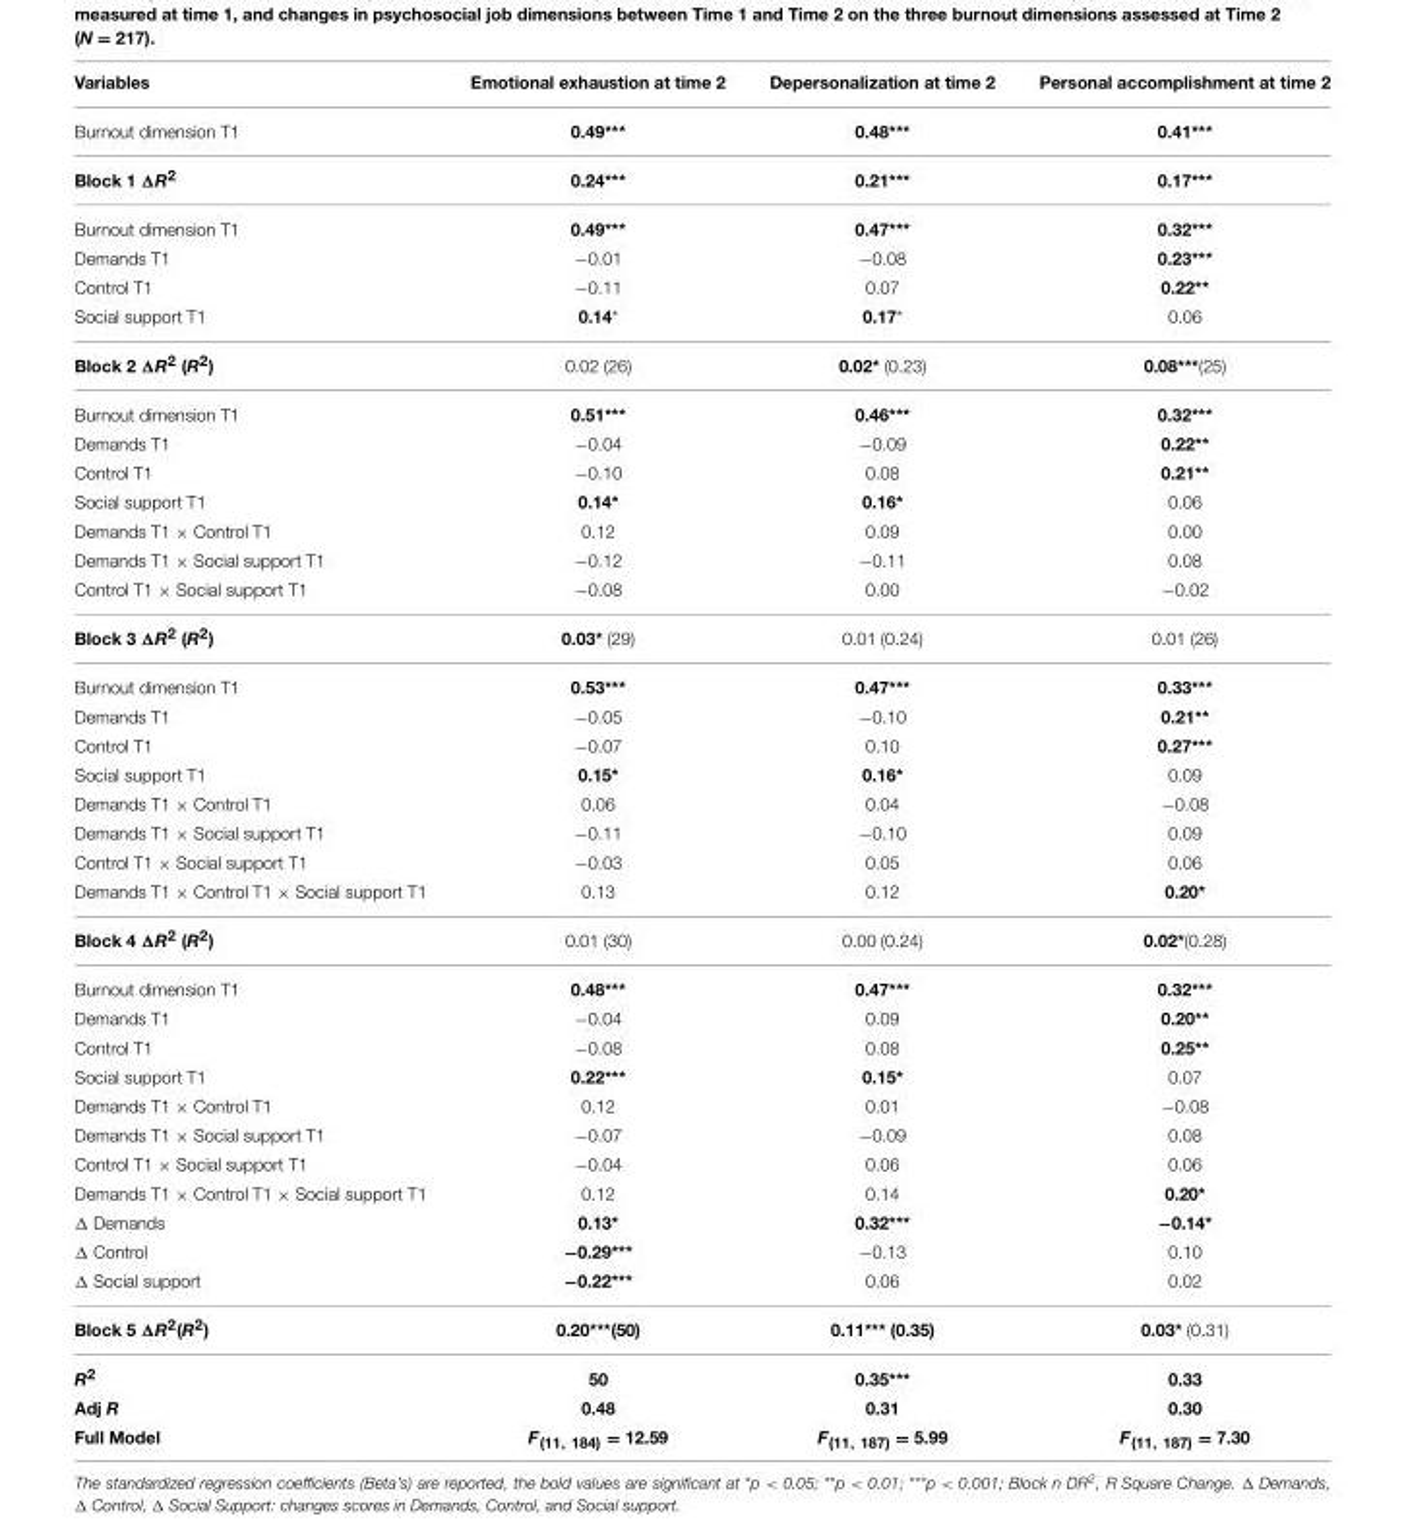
<table><thead><tr><td>Variables</td><td>Emotional exhaustion at time 2</td><td>Depersonalization at time 2</td><td>Personal accomplishment at time 2</td></tr></thead><tbody><tr><td>Burnout dimension T1</td><td>0.49***</td><td>0.48***</td><td>0.41***</td></tr><tr><td>Block 1 ΔR<sup>2</sup></td><td>0.24***</td><td>0.21***</td><td>0.17***</td></tr><tr><td>Burnout dimension T1</td><td>0.49***</td><td>0.47***</td><td>0.32***</td></tr><tr><td>Demands T1</td><td>−0.01</td><td>−0.08</td><td>0.23***</td></tr><tr><td>Control T1</td><td>−0.11</td><td>0.07</td><td>0.22**</td></tr><tr><td>Social support T1</td><td>0.14*</td><td>0.17*</td><td>0.06</td></tr><tr><td>Block 2 ΔR<sup>2</sup> (R<sup>2</sup>)</td><td>0.02 (26)</td><td>0.02* (0.23)</td><td>0.08***(25)</td></tr><tr><td>Burnout dimension T1</td><td>0.51***</td><td>0.46***</td><td>0.32***</td></tr><tr><td>Demands T1</td><td>−0.04</td><td>−0.09</td><td>0.22**</td></tr><tr><td>Control T1</td><td>−0.10</td><td>0.08</td><td>0.21**</td></tr><tr><td>Social support T1</td><td>0.14*</td><td>0.16*</td><td>0.06</td></tr><tr><td>Demands T1 × Control T1</td><td>0.12</td><td>0.09</td><td>0.00</td></tr><tr><td>Demands T1 × Social support T1</td><td>−0.12</td><td>−0.11</td><td>0.08</td></tr><tr><td>Control T1 × Social support T1</td><td>−0.08</td><td>0.00</td><td>−0.02</td></tr><tr><td>Block 3 ΔR<sup>2</sup> (R<sup>2</sup>)</td><td>0.03* (29)</td><td>0.01 (0.24)</td><td>0.01 (26)</td></tr><tr><td>Burnout dimension T1</td><td>0.53***</td><td>0.47***</td><td>0.33***</td></tr><tr><td>Demands T1</td><td>−0.05</td><td>−0.10</td><td>0.21**</td></tr><tr><td>Control T1</td><td>−0.07</td><td>0.10</td><td>0.27***</td></tr><tr><td>Social support T1</td><td>0.15*</td><td>0.16*</td><td>0.09</td></tr><tr><td>Demands T1 × Control T1</td><td>0.06</td><td>0.04</td><td>−0.08</td></tr><tr><td>Demands T1 × Social support T1</td><td>−0.11</td><td>−0.10</td><td>0.09</td></tr><tr><td>Control T1 × Social support T1</td><td>−0.03</td><td>0.05</td><td>0.06</td></tr><tr><td>Demands T1 × Control T1 × Social support T1</td><td>0.13</td><td>0.12</td><td>0.20*</td></tr><tr><td>Block 4 ΔR<sup>2</sup> (R<sup>2</sup>)</td><td>0.01 (30)</td><td>0.00 (0.24)</td><td>0.02*(0.28)</td></tr><tr><td>Burnout dimension T1</td><td>0.48***</td><td>0.47***</td><td>0.32***</td></tr><tr><td>Demands T1</td><td>−0.04</td><td>0.09</td><td>0.20**</td></tr><tr><td>Control T1</td><td>−0.08</td><td>0.08</td><td>0.25**</td></tr><tr><td>Social support T1</td><td>0.22***</td><td>0.15*</td><td>0.07</td></tr><tr><td>Demands T1 × Control T1</td><td>0.12</td><td>0.01</td><td>−0.08</td></tr><tr><td>Demands T1 × Social support T1</td><td>−0.07</td><td>−0.09</td><td>0.08</td></tr><tr><td>Control T1 × Social support T1</td><td>−0.04</td><td>0.06</td><td>0.06</td></tr><tr><td>Demands T1 × Control T1 × Social support T1</td><td>0.12</td><td>0.14</td><td>0.20*</td></tr><tr><td>Δ Demands</td><td>0.13*</td><td>0.32***</td><td>−0.14*</td></tr><tr><td>Δ Control</td><td>−0.29***</td><td>−0.13</td><td>0.10</td></tr><tr><td>Δ Social support</td><td>−0.22***</td><td>0.06</td><td>0.02</td></tr><tr><td>Block 5 ΔR<sup>2</sup>(R<sup>2</sup>)</td><td>0.20***(50)</td><td>0.11*** (0.35)</td><td>0.03* (0.31)</td></tr><tr><td>R<sup>2</sup></td><td>50</td><td>0.35***</td><td>0.33</td></tr><tr><td>Adj R</td><td>0.48</td><td>0.31</td><td>0.30</td></tr><tr><td>Full Model</td><td>F<sub>(11, 184)</sub> = 12.59</td><td>F<sub>(11, 187)</sub> = 5.99</td><td>F<sub>(11, 187)</sub> = 7.30</td></tr></tbody></table>